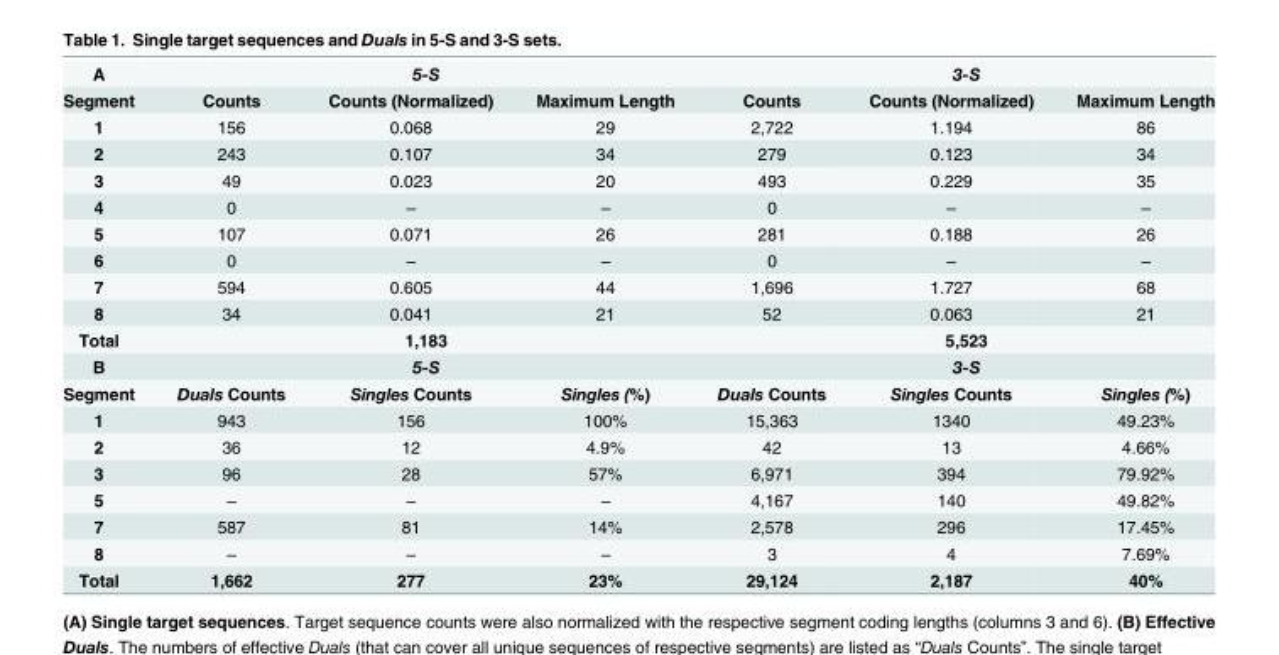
<table><tbody><tr><td>A</td><td colspan="3">5-S</td><td colspan="3">3-S</td></tr><tr><td>Segment</td><td>Counts</td><td>Counts (Normalized)</td><td>Maximum Length</td><td>Counts</td><td>Counts (Normalized)</td><td>Maximum Length</td></tr><tr><td>1</td><td>156</td><td>0.068</td><td>29</td><td>2,722</td><td>1.194</td><td>86</td></tr><tr><td>2</td><td>243</td><td>0.107</td><td>34</td><td>279</td><td>0.123</td><td>34</td></tr><tr><td>3</td><td>49</td><td>0.023</td><td>20</td><td>493</td><td>0.229</td><td>35</td></tr><tr><td>4</td><td>0</td><td>–</td><td>–</td><td>0</td><td>–</td><td>–</td></tr><tr><td>5</td><td>107</td><td>0.071</td><td>26</td><td>281</td><td>0.188</td><td>26</td></tr><tr><td>6</td><td>0</td><td>–</td><td>–</td><td>0</td><td>–</td><td>–</td></tr><tr><td>7</td><td>594</td><td>0.605</td><td>44</td><td>1,696</td><td>1.727</td><td>68</td></tr><tr><td>8</td><td>34</td><td>0.041</td><td>21</td><td>52</td><td>0.063</td><td>21</td></tr><tr><td>Total</td><td colspan="3">1,183</td><td colspan="3">5,523</td></tr><tr><td>B</td><td colspan="3">5-S</td><td colspan="3">3-S</td></tr><tr><td>Segment</td><td>Duals Counts</td><td>Singles Counts</td><td>Singles (%)</td><td>Duals Counts</td><td>Singles Counts</td><td>Singles (%)</td></tr><tr><td>1</td><td>943</td><td>156</td><td>100%</td><td>15,363</td><td>1340</td><td>49.23%</td></tr><tr><td>2</td><td>36</td><td>12</td><td>4.9%</td><td>42</td><td>13</td><td>4.66%</td></tr><tr><td>3</td><td>96</td><td>28</td><td>57%</td><td>6,971</td><td>394</td><td>79.92%</td></tr><tr><td>5</td><td>–</td><td>–</td><td>–</td><td>4,167</td><td>140</td><td>49.82%</td></tr><tr><td>7</td><td>587</td><td>81</td><td>14%</td><td>2,578</td><td>296</td><td>17.45%</td></tr><tr><td>8</td><td>–</td><td>–</td><td>–</td><td>3</td><td>4</td><td>7.69%</td></tr><tr><td>Total</td><td>1,662</td><td>277</td><td>23%</td><td>29,124</td><td>2,187</td><td>40%</td></tr></tbody></table>